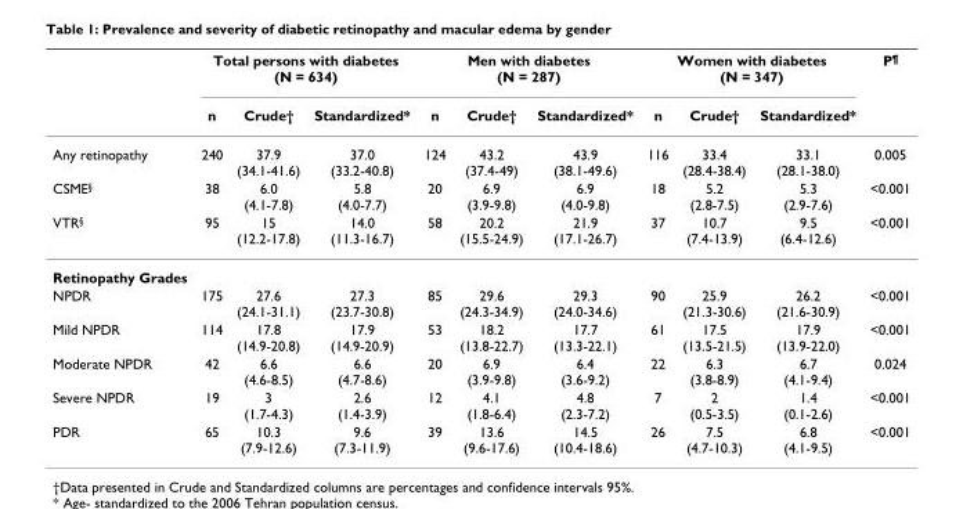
<table><thead><tr><td rowspan="2"></td><td colspan="3">Total persons with diabetes (N = 634)</td><td colspan="3">Men with diabetes (N = 287)</td><td colspan="3">Women with diabetes (N = 347)</td><td rowspan="2">P<sup>¶</sup></td></tr><tr><td>n</td><td>Crude†</td><td>Standardized*</td><td>n</td><td>Crude†</td><td>Standardized*</td><td>n</td><td>Crude†</td><td>Standardized*</td></tr></thead><tbody><tr><td>Any retinopathy</td><td>240</td><td>37.9 (34.1-41.6)</td><td>37.0 (33.2-40.8)</td><td>124</td><td>43.2 (37.4-49)</td><td>43.9 (38.1-49.6)</td><td>116</td><td>33.4 (28.4-38.4)</td><td>33.1 (28.1-38.0)</td><td>0.005</td></tr><tr><td>CSME<sup>§</sup></td><td>38</td><td>6.0 (4.1-7.8)</td><td>5.8 (4.0-7.7)</td><td>20</td><td>6.9 (3.9-9.8)</td><td>6.9 (4.0-9.8)</td><td>18</td><td>5.2 (2.8-7.5)</td><td>5.3 (2.9-7.6)</td><td>&lt;0.001</td></tr><tr><td>VTR<sup>§</sup></td><td>95</td><td>15 (12.2-17.8)</td><td>14.0 (11.3-16.7)</td><td>58</td><td>20.2 (15.5-24.9)</td><td>21.9 (17.1-26.7)</td><td>37</td><td>10.7 (7.4-13.9)</td><td>9.5 (6.4-12.6)</td><td>&lt;0.001</td></tr><tr><td colspan="11">Retinopathy Grades</td></tr><tr><td>NPDR</td><td>175</td><td>27.6 (24.1-31.1)</td><td>27.3 (23.7-30.8)</td><td>85</td><td>29.6 (24.3-34.9)</td><td>29.3 (24.0-34.6)</td><td>90</td><td>25.9 (21.3-30.6)</td><td>26.2 (21.6-30.9)</td><td>&lt;0.001</td></tr><tr><td>Mild NPDR</td><td>114</td><td>17.8 (14.9-20.8)</td><td>17.9 (14.9-20.9)</td><td>53</td><td>18.2 (13.8-22.7)</td><td>17.7 (13.3-22.1)</td><td>61</td><td>17.5 (13.5-21.5)</td><td>17.9 (13.9-22.0)</td><td>&lt;0.001</td></tr><tr><td>Moderate NPDR</td><td>42</td><td>6.6 (4.6-8.5)</td><td>6.6 (4.7-8.6)</td><td>20</td><td>6.9 (3.9-9.8)</td><td>6.4 (3.6-9.2)</td><td>22</td><td>6.3 (3.8-8.9)</td><td>6.7 (4.1-9.4)</td><td>0.024</td></tr><tr><td>Severe NPDR</td><td>19</td><td>3 (1.7-4.3)</td><td>2.6 (1.4-3.9)</td><td>12</td><td>4.1 (1.8-6.4)</td><td>4.8 (2.3-7.2)</td><td>7</td><td>2 (0.5-3.5)</td><td>1.4 (0.1-2.6)</td><td>&lt;0.001</td></tr><tr><td>PDR</td><td>65</td><td>10.3 (7.9-12.6)</td><td>9.6 (7.3-11.9)</td><td>39</td><td>13.6 (9.6-17.6)</td><td>14.5 (10.4-18.6)</td><td>26</td><td>7.5 (4.7-10.3)</td><td>6.8 (4.1-9.5)</td><td>&lt;0.001</td></tr></tbody></table>